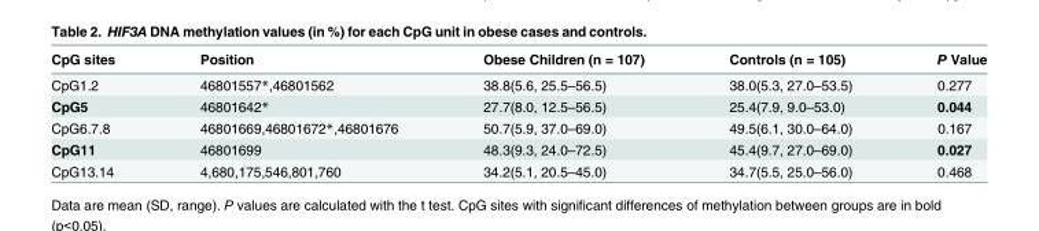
<table><thead><tr><td>CpG sites</td><td>Position</td><td>Obese Children (n = 107)</td><td>Controls (n = 105)</td><td>P Value</td></tr></thead><tbody><tr><td>CpG1.2</td><td>46801557*,46801562</td><td>38.8(5.6, 25.5–56.5)</td><td>38.0(5.3, 27.0–53.5)</td><td>0.277</td></tr><tr><td>CpG5</td><td>46801642*</td><td>27.7(8.0, 12.5–56.5)</td><td>25.4(7.9, 9.0–53.0)</td><td>0.044</td></tr><tr><td>CpG6.7.8</td><td>46801669,46801672*,46801676</td><td>50.7(5.9, 37.0–69.0)</td><td>49.5(6.1, 30.0–64.0)</td><td>0.167</td></tr><tr><td>CpG11</td><td>46801699</td><td>48.3(9.3, 24.0–72.5)</td><td>45.4(9.7, 27.0–69.0)</td><td>0.027</td></tr><tr><td>CpG13.14</td><td>4,680,175,546,801,760</td><td>34.2(5.1, 20.5–45.0)</td><td>34.7(5.5, 25.0–56.0)</td><td>0.468</td></tr></tbody></table>